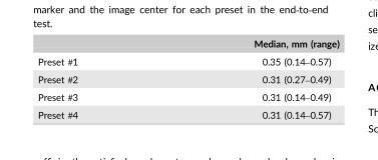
<table><thead><tr><td></td><td>Median, mm (range)</td></tr></thead><tbody><tr><td>Preset #1</td><td>0.35 (0.14–0.57)</td></tr><tr><td>Preset #2</td><td>0.31 (0.27–0.49)</td></tr><tr><td>Preset #3</td><td>0.31 (0.14–0.49)</td></tr><tr><td>Preset #4</td><td>0.31 (0.14–0.57)</td></tr></tbody></table>